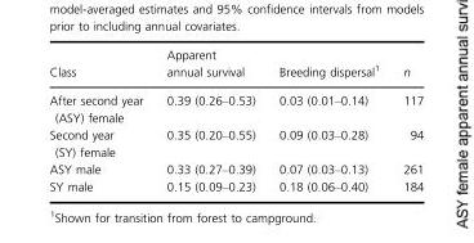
<table><thead><tr><td>Class</td><td>Apparent annual survival</td><td>Breeding dispersal1</td><td>n</td></tr></thead><tbody><tr><td>After second year (ASY) female</td><td>0.39 (0.26–0.53)</td><td>0.03 (0.01–0.14)</td><td>117</td></tr><tr><td>Second year (SY) female</td><td>0.35 (0.20–0.55)</td><td>0.09 (0.03–0.28)</td><td>94</td></tr><tr><td>ASY male</td><td>0.33 (0.27–0.39)</td><td>0.07 (0.03–0.13)</td><td>261</td></tr><tr><td>SY male</td><td>0.15 (0.09–0.23)</td><td>0.18 (0.06–0.40)</td><td>184</td></tr></tbody></table>